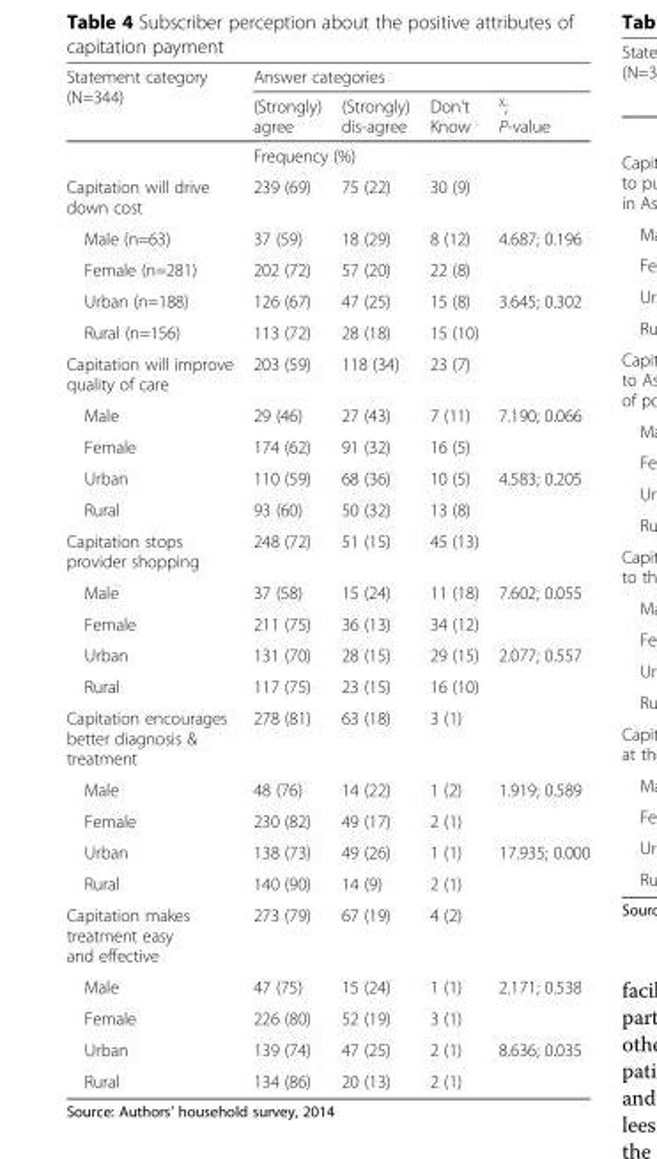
<table><thead><tr><td rowspan="2">Statement category (N=344)</td><td colspan="4">Answer categories</td></tr><tr><td>(Strongly) agree</td><td>(Strongly) dis-agree</td><td>Don&#x27;t Know</td><td><sup>χ</sup>; P-value</td></tr></thead><tbody><tr><td></td><td colspan="3">Frequency (%)</td><td></td></tr><tr><td>Capitation will drive down cost</td><td>239 (69)</td><td>75 (22)</td><td>30 (9)</td><td></td></tr><tr><td>Male (n=63)</td><td>37 (59)</td><td>18 (29)</td><td>8 (12)</td><td rowspan="2">4.687; 0.196</td></tr><tr><td>Female (n=281)</td><td>202 (72)</td><td>57 (20)</td><td>22 (8)</td></tr><tr><td>Urban (n=188)</td><td>126 (67)</td><td>47 (25)</td><td>15 (8)</td><td rowspan="2">3.645; 0.302</td></tr><tr><td>Rural (n=156)</td><td>113 (72)</td><td>28 (18)</td><td>15 (10)</td></tr><tr><td>Capitation will improve quality of care</td><td>203 (59)</td><td>118 (34)</td><td>23 (7)</td><td></td></tr><tr><td>Male</td><td>29 (46)</td><td>27 (43)</td><td>7 (11)</td><td rowspan="2">7.190; 0.066</td></tr><tr><td>Female</td><td>174 (62)</td><td>91 (32)</td><td>16 (5)</td></tr><tr><td>Urban</td><td>110 (59)</td><td>68 (36)</td><td>10 (5)</td><td rowspan="2">4.583; 0.205</td></tr><tr><td>Rural</td><td>93 (60)</td><td>50 (32)</td><td>13 (8)</td></tr><tr><td>Capitation stops provider shopping</td><td>248 (72)</td><td>51 (15)</td><td>45 (13)</td><td></td></tr><tr><td>Male</td><td>37 (58)</td><td>15 (24)</td><td>11 (18)</td><td rowspan="2">7.602; 0.055</td></tr><tr><td>Female</td><td>211 (75)</td><td>36 (13)</td><td>34 (12)</td></tr><tr><td>Urban</td><td>131 (70)</td><td>28 (15)</td><td>29 (15)</td><td rowspan="2">2.077; 0.557</td></tr><tr><td>Rural</td><td>117 (75)</td><td>23 (15)</td><td>16 (10)</td></tr><tr><td>Capitation encourages better diagnosis &amp; treatment</td><td>278 (81)</td><td>63 (18)</td><td>3 (1)</td><td></td></tr><tr><td>Male</td><td>48 (76)</td><td>14 (22)</td><td>1 (2)</td><td rowspan="2">1.919; 0.589</td></tr><tr><td>Female</td><td>230 (82)</td><td>49 (17)</td><td>2 (1)</td></tr><tr><td>Urban</td><td>138 (73)</td><td>49 (26)</td><td>1 (1)</td><td rowspan="2">17.935; 0.000</td></tr><tr><td>Rural</td><td>140 (90)</td><td>14 (9)</td><td>2 (1)</td></tr><tr><td>Capitation makes treatment easy and effective</td><td>273 (79)</td><td>67 (19)</td><td>4 (2)</td><td></td></tr><tr><td>Male</td><td>47 (75)</td><td>15 (24)</td><td>1 (1)</td><td rowspan="2">2.171; 0.538</td></tr><tr><td>Female</td><td>226 (80)</td><td>52 (19)</td><td>3 (1)</td></tr><tr><td>Urban</td><td>139 (74)</td><td>47 (25)</td><td>2 (1)</td><td rowspan="2">8.636; 0.035</td></tr><tr><td>Rural</td><td>134 (86)</td><td>20 (13)</td><td>2 (1)</td></tr></tbody></table>